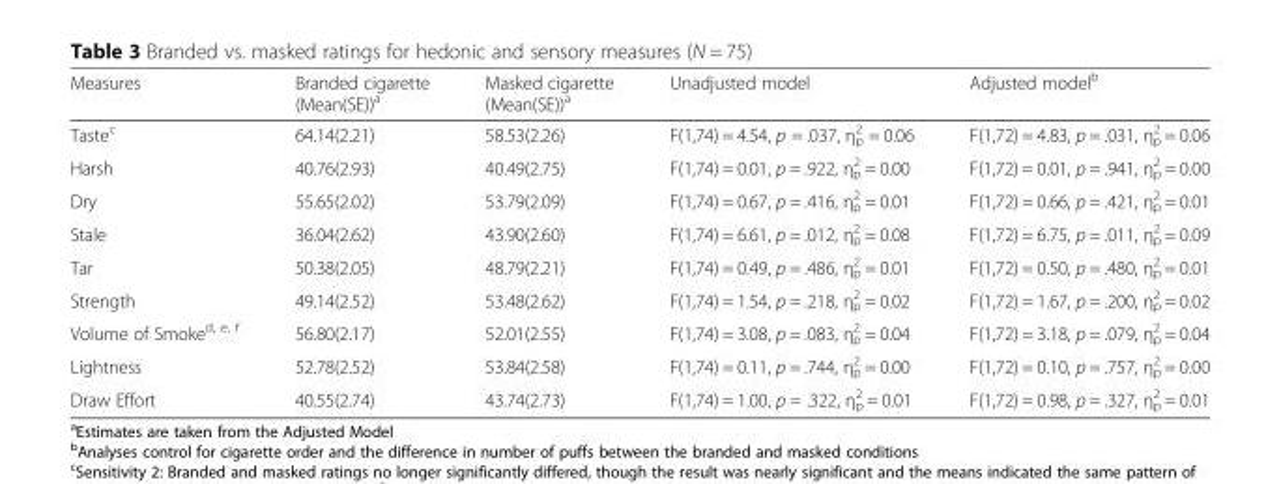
<table><thead><tr><td>Measures</td><td>Branded cigarette (Mean(SE))<sup>a</sup></td><td>Masked cigarette (Mean(SE))<sup>a</sup></td><td>Unadjusted model</td><td>Adjusted model<sup>b</sup></td></tr></thead><tbody><tr><td>Taste<sup>c</sup></td><td>64.14(2.21)</td><td>58.53(2.26)</td><td>F(1,74) = 4.54, p = .037, η<sub>p</sub> <sup>2</sup> = 0.06</td><td>F(1,72) = 4.83, p = .031, η<sub>p</sub> <sup>2</sup> = 0.06</td></tr><tr><td>Harsh</td><td>40.76(2.93)</td><td>40.49(2.75)</td><td>F(1,74) = 0.01, p = .922, η<sub>p</sub> <sup>2</sup> = 0.00</td><td>F(1,72) = 0.01, p = .941, η<sub>p</sub> <sup>2</sup> = 0.00</td></tr><tr><td>Dry</td><td>55.65(2.02)</td><td>53.79(2.09)</td><td>F(1,74) = 0.67, p = .416, η<sub>p</sub> <sup>2</sup> = 0.01</td><td>F(1,72) = 0.66, p = .421, η<sub>p</sub> <sup>2</sup> = 0.01</td></tr><tr><td>Stale</td><td>36.04(2.62)</td><td>43.90(2.60)</td><td>F(1,74) = 6.61, p = .012, η<sub>p</sub> <sup>2</sup> = 0.08</td><td>F(1,72) = 6.75, p = .011, η<sub>p</sub> <sup>2</sup> = 0.09</td></tr><tr><td>Tar</td><td>50.38(2.05)</td><td>48.79(2.21)</td><td>F(1,74) = 0.49, p = .486, η<sub>p</sub> <sup>2</sup> = 0.01</td><td>F(1,72) = 0.50, p = .480, η<sub>p</sub> <sup>2</sup> = 0.01</td></tr><tr><td>Strength</td><td>49.14(2.52)</td><td>53.48(2.62)</td><td>F(1,74) = 1.54, p = .218, η<sub>p</sub> <sup>2</sup> = 0.02</td><td>F(1,72) = 1.67, p = .200, η<sub>p</sub> <sup>2</sup> = 0.02</td></tr><tr><td>Volume of Smoke<sup>d, e, f</sup></td><td>56.80(2.17)</td><td>52.01(2.55)</td><td>F(1,74) = 3.08, p = .083, η<sub>p</sub> <sup>2</sup> = 0.04</td><td>F(1,72) = 3.18, p = .079, η<sub>p</sub> <sup>2</sup> = 0.04</td></tr><tr><td>Lightness</td><td>52.78(2.52)</td><td>53.84(2.58)</td><td>F(1,74) = 0.11, p = .744, η<sub>p</sub> <sup>2</sup> = 0.00</td><td>F(1,72) = 0.10, p = .757, η<sub>p</sub> <sup>2</sup> = 0.00</td></tr><tr><td>Draw Effort</td><td>40.55(2.74)</td><td>43.74(2.73)</td><td>F(1,74) = 1.00, p = .322, η<sub>p</sub> <sup>2</sup> = 0.01</td><td>F(1,72) = 0.98, p = .327, η<sub>p</sub> <sup>2</sup> = 0.01</td></tr></tbody></table>